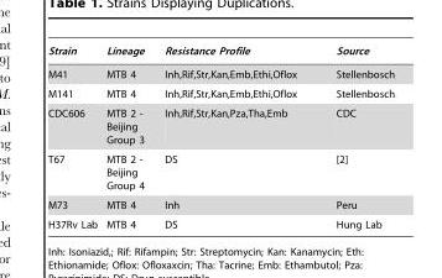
<table><thead><tr><td>Strain</td><td>Lineage</td><td>Resistance Profile</td><td>Source</td></tr></thead><tbody><tr><td>M41</td><td>MTB 4</td><td>Inh,Rif,Str,Kan,Emb,Ethi,Oflox</td><td>Stellenbosch</td></tr><tr><td>M141</td><td>MTB 4</td><td>Inh,Rif,Str,Kan,Emb,Ethi,Oflox</td><td>Stellenbosch</td></tr><tr><td>CDC606</td><td>MTB 2 - Beijing Group 3</td><td>Inh,Rif,Str,Kan,Pza,Tha,Emb</td><td>CDC</td></tr><tr><td>T67</td><td>MTB 2 - Beijing Group 4</td><td>DS</td><td>[2]</td></tr><tr><td>M73</td><td>MTB 4</td><td>Inh</td><td>Peru</td></tr><tr><td>H37Rv Lab</td><td>MTB 4</td><td>DS</td><td>Hung Lab</td></tr></tbody></table>